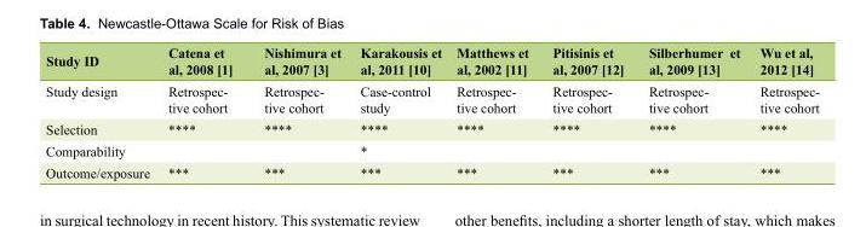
<table><thead><tr><td>Study ID</td><td>Catena et al, 2008 [1]</td><td>Nishimura et al, 2007 [3]</td><td>Karakousis et al, 2011 [10]</td><td>Matthews et al, 2002 [11]</td><td>Pitisinis et al, 2007 [12]</td><td>Silberhumer et al, 2009 [13]</td><td>Wu et al, 2012 [14]</td></tr></thead><tbody><tr><td>Study design</td><td>Retrospec- tive cohort</td><td>Retrospec- tive cohort</td><td>Case-control study</td><td>Retrospec- tive cohort</td><td>Retrospec- tive cohort</td><td>Retrospec- tive cohort</td><td>Retrospec- tive cohort</td></tr><tr><td>Selection</td><td>****</td><td>****</td><td>****</td><td>****</td><td>****</td><td>****</td><td>****</td></tr><tr><td>Comparability</td><td></td><td></td><td>*</td><td></td><td></td><td></td><td></td></tr><tr><td>Outcome/exposure</td><td>***</td><td>***</td><td>***</td><td>***</td><td>***</td><td>***</td><td>***</td></tr></tbody></table>